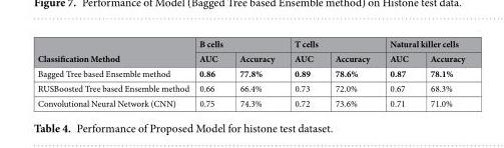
<table><thead><tr><td rowspan="2">Classification Method</td><td colspan="2">B cells</td><td colspan="2">T cells</td><td colspan="2">Natural killer cells</td></tr><tr><td>AUC</td><td>Accuracy</td><td>AUC</td><td>Accuracy</td><td>AUC</td><td>Accuracy</td></tr></thead><tbody><tr><td>Bagged Tree based Ensemble method</td><td>0.86</td><td>77.8%</td><td>0.89</td><td>78.6%</td><td>0.87</td><td>78.1%</td></tr><tr><td>RUSBoosted Tree based Ensemble method</td><td>0.66</td><td>66.4%</td><td>0.73</td><td>72.0%</td><td>0.67</td><td>68.3%</td></tr><tr><td>Convolutional Neural Network (CNN)</td><td>0.75</td><td>74.3%</td><td>0.72</td><td>73.6%</td><td>0.71</td><td>71.0%</td></tr></tbody></table>